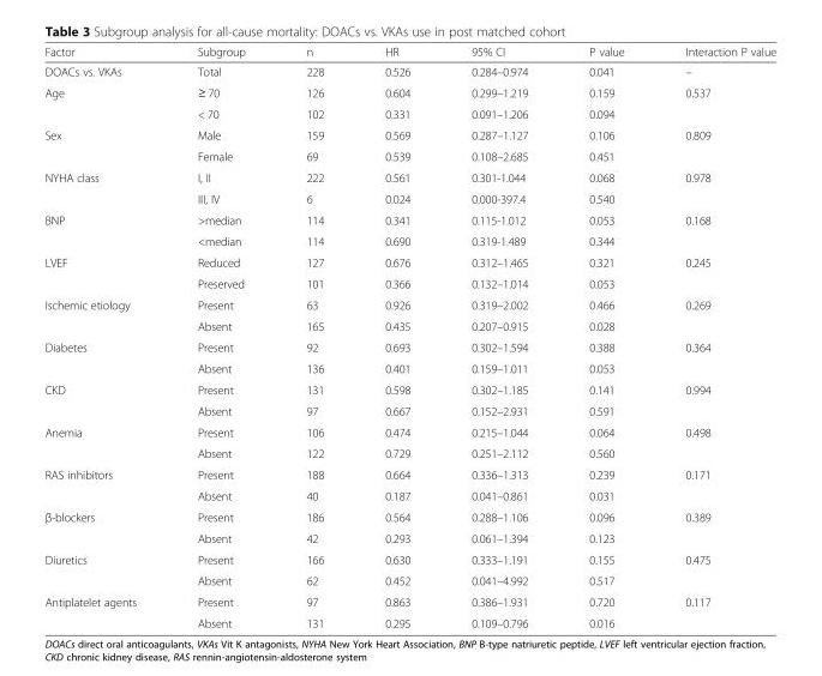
<table><thead><tr><td>Factor</td><td>Subgroup</td><td>n</td><td>HR</td><td>95% CI</td><td>P value</td><td>Interaction P value</td></tr></thead><tbody><tr><td>DOACs vs. VKAs</td><td>Total</td><td>228</td><td>0.526</td><td>0.284–0.974</td><td>0.041</td><td>–</td></tr><tr><td rowspan="2">Age</td><td>≥ 70</td><td>126</td><td>0.604</td><td>0.299–1.219</td><td>0.159</td><td rowspan="2">0.537</td></tr><tr><td>&lt; 70</td><td>102</td><td>0.331</td><td>0.091–1.206</td><td>0.094</td></tr><tr><td rowspan="2">Sex</td><td>Male</td><td>159</td><td>0.569</td><td>0.287–1.127</td><td>0.106</td><td rowspan="2">0.809</td></tr><tr><td>Female</td><td>69</td><td>0.539</td><td>0.108–2.685</td><td>0.451</td></tr><tr><td rowspan="2">NYHA class</td><td>I, II</td><td>222</td><td>0.561</td><td>0.301-1.044</td><td>0.068</td><td rowspan="2">0.978</td></tr><tr><td>III, IV</td><td>6</td><td>0.024</td><td>0.000-397.4</td><td>0.540</td></tr><tr><td rowspan="2">BNP</td><td>&gt;median</td><td>114</td><td>0.341</td><td>0.115-1.012</td><td>0.053</td><td rowspan="2">0.168</td></tr><tr><td>&lt;median</td><td>114</td><td>0.690</td><td>0.319-1.489</td><td>0.344</td></tr><tr><td rowspan="2">LVEF</td><td>Reduced</td><td>127</td><td>0.676</td><td>0.312–1.465</td><td>0.321</td><td rowspan="2">0.245</td></tr><tr><td>Preserved</td><td>101</td><td>0.366</td><td>0.132–1.014</td><td>0.053</td></tr><tr><td rowspan="2">Ischemic etiology</td><td>Present</td><td>63</td><td>0.926</td><td>0.319–2.002</td><td>0.466</td><td rowspan="2">0.269</td></tr><tr><td>Absent</td><td>165</td><td>0.435</td><td>0.207–0.915</td><td>0.028</td></tr><tr><td rowspan="2">Diabetes</td><td>Present</td><td>92</td><td>0.693</td><td>0.302–1.594</td><td>0.388</td><td rowspan="2">0.364</td></tr><tr><td>Absent</td><td>136</td><td>0.401</td><td>0.159–1.011</td><td>0.053</td></tr><tr><td rowspan="2">CKD</td><td>Present</td><td>131</td><td>0.598</td><td>0.302–1.185</td><td>0.141</td><td rowspan="2">0.994</td></tr><tr><td>Absent</td><td>97</td><td>0.667</td><td>0.152–2.931</td><td>0.591</td></tr><tr><td rowspan="2">Anemia</td><td>Present</td><td>106</td><td>0.474</td><td>0.215–1.044</td><td>0.064</td><td rowspan="2">0.498</td></tr><tr><td>Absent</td><td>122</td><td>0.729</td><td>0.251–2.112</td><td>0.560</td></tr><tr><td rowspan="2">RAS inhibitors</td><td>Present</td><td>188</td><td>0.664</td><td>0.336–1.313</td><td>0.239</td><td rowspan="2">0.171</td></tr><tr><td>Absent</td><td>40</td><td>0.187</td><td>0.041–0.861</td><td>0.031</td></tr><tr><td rowspan="2">β-blockers</td><td>Present</td><td>186</td><td>0.564</td><td>0.288–1.106</td><td>0.096</td><td rowspan="2">0.389</td></tr><tr><td>Absent</td><td>42</td><td>0.293</td><td>0.061–1.394</td><td>0.123</td></tr><tr><td rowspan="2">Diuretics</td><td>Present</td><td>166</td><td>0.630</td><td>0.333–1.191</td><td>0.155</td><td rowspan="2">0.475</td></tr><tr><td>Absent</td><td>62</td><td>0.452</td><td>0.041–4.992</td><td>0.517</td></tr><tr><td rowspan="2">Antiplatelet agents</td><td>Present</td><td>97</td><td>0.863</td><td>0.386–1.931</td><td>0.720</td><td rowspan="2">0.117</td></tr><tr><td>Absent</td><td>131</td><td>0.295</td><td>0.109–0.796</td><td>0.016</td></tr></tbody></table>